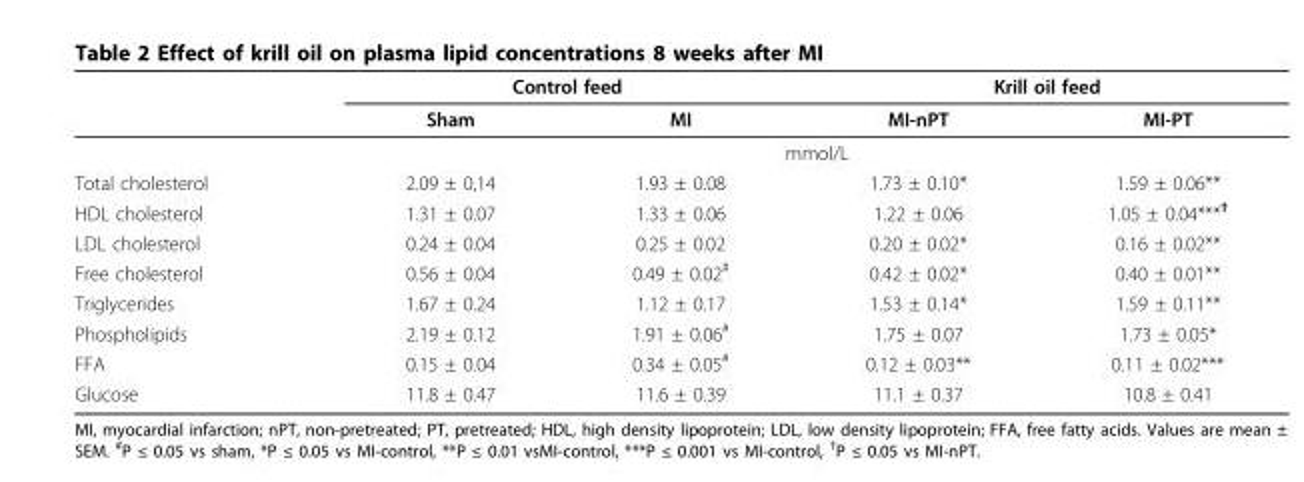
<table><thead><tr><td rowspan="2"></td><td colspan="2">Control feed</td><td colspan="2">Krill oil feed</td></tr><tr><td>Sham</td><td>MI</td><td>MI-nPT</td><td>MI-PT</td></tr></thead><tbody><tr><td></td><td colspan="4">mmol/L</td></tr><tr><td>Total cholesterol</td><td>2.09 ± 0,14</td><td>1.93 ± 0.08</td><td>1.73 ± 0.10*</td><td>1.59 ± 0.06**</td></tr><tr><td>HDL cholesterol</td><td>1.31 ± 0.07</td><td>1.33 ± 0.06</td><td>1.22 ± 0.06</td><td>1.05 ± 0.04***<sup>†</sup></td></tr><tr><td>LDL cholesterol</td><td>0.24 ± 0.04</td><td>0.25 ± 0.02</td><td>0.20 ± 0.02*</td><td>0.16 ± 0.02**</td></tr><tr><td>Free cholesterol</td><td>0.56 ± 0.04</td><td>0.49 ± 0.02<sup>#</sup></td><td>0.42 ± 0.02*</td><td>0.40 ± 0.01**</td></tr><tr><td>Triglycerides</td><td>1.67 ± 0.24</td><td>1.12 ± 0.17</td><td>1.53 ± 0.14*</td><td>1.59 ± 0.11**</td></tr><tr><td>Phospholipids</td><td>2.19 ± 0.12</td><td>1.91 ± 0.06<sup>#</sup></td><td>1.75 ± 0.07</td><td>1.73 ± 0.05*</td></tr><tr><td>FFA</td><td>0.15 ± 0.04</td><td>0.34 ± 0.05<sup>#</sup></td><td>0.12 ± 0.03**</td><td>0.11 ± 0.02***</td></tr><tr><td>Glucose</td><td>11.8 ± 0.47</td><td>11.6 ± 0.39</td><td>11.1 ± 0.37</td><td>10.8 ± 0.41</td></tr></tbody></table>